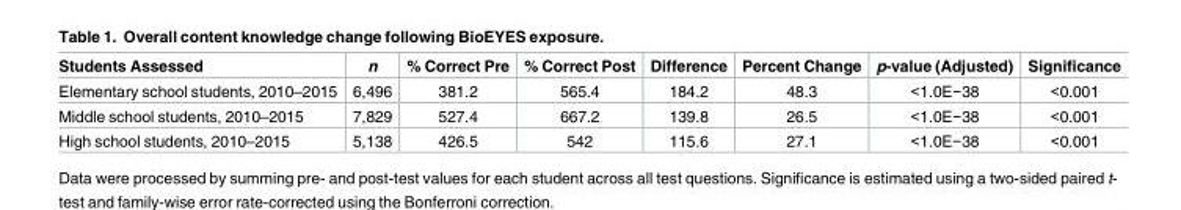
<table><thead><tr><td>Students Assessed</td><td>n</td><td>% Correct Pre</td><td>% Correct Post</td><td>Difference</td><td>Percent Change</td><td>p-value (Adjusted)</td><td>Significance</td></tr></thead><tbody><tr><td>Elementary school students, 2010–2015</td><td>6,496</td><td>381.2</td><td>565.4</td><td>184.2</td><td>48.3</td><td>&lt;1.0E−38</td><td>&lt;0.001</td></tr><tr><td>Middle school students, 2010–2015</td><td>7,829</td><td>527.4</td><td>667.2</td><td>139.8</td><td>26.5</td><td>&lt;1.0E−38</td><td>&lt;0.001</td></tr><tr><td>High school students, 2010–2015</td><td>5,138</td><td>426.5</td><td>542</td><td>115.6</td><td>27.1</td><td>&lt;1.0E−38</td><td>&lt;0.001</td></tr></tbody></table>